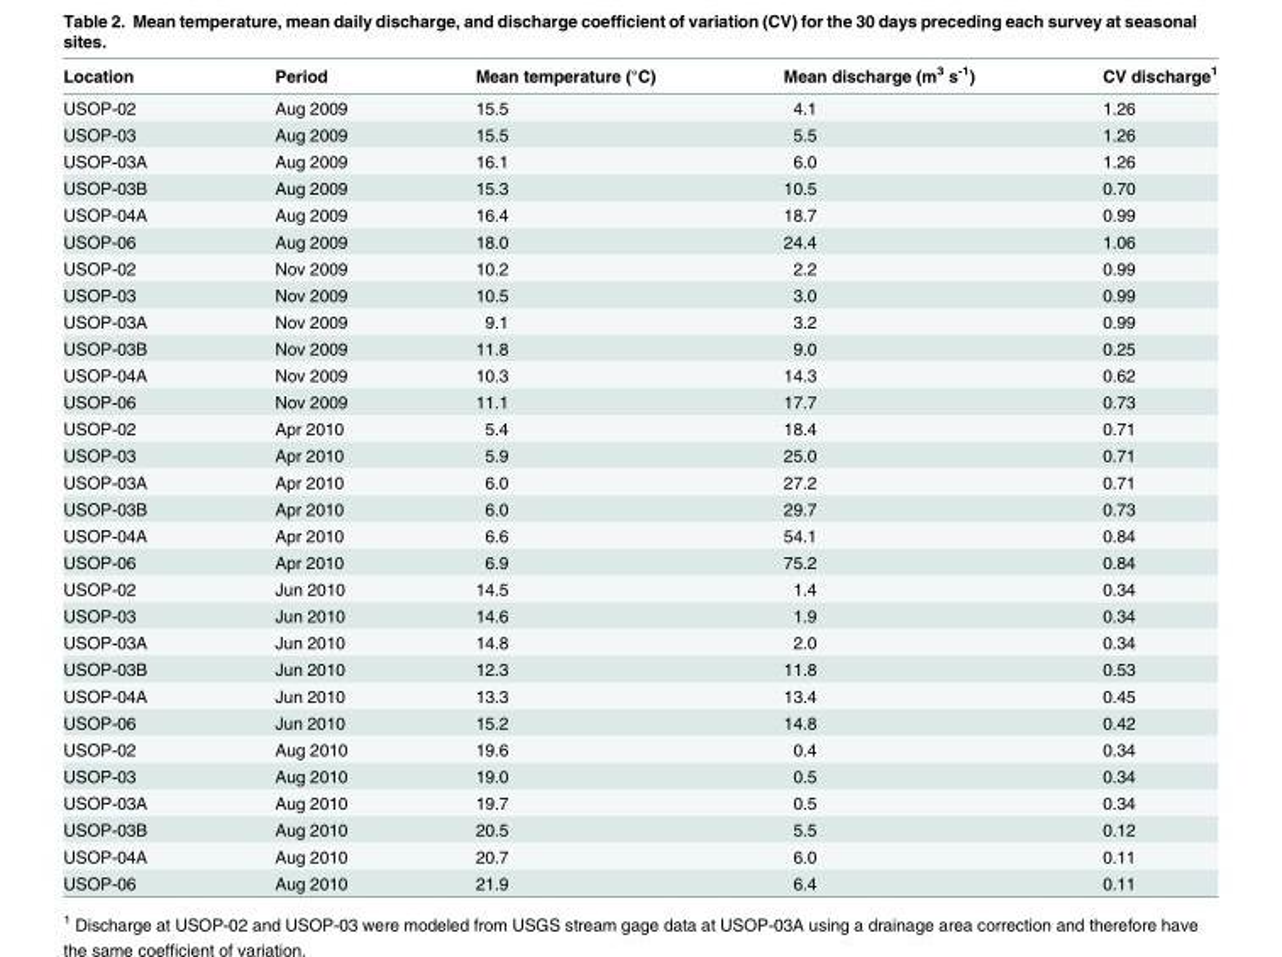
<table><thead><tr><td>Location</td><td>Period</td><td>Mean temperature (°C)</td><td>Mean discharge (m<sup>3</sup> s<sup>-1</sup>)</td><td>CV discharge<sup>1</sup></td></tr></thead><tbody><tr><td>USOP-02</td><td>Aug 2009</td><td>15.5</td><td>4.1</td><td>1.26</td></tr><tr><td>USOP-03</td><td>Aug 2009</td><td>15.5</td><td>5.5</td><td>1.26</td></tr><tr><td>USOP-03A</td><td>Aug 2009</td><td>16.1</td><td>6.0</td><td>1.26</td></tr><tr><td>USOP-03B</td><td>Aug 2009</td><td>15.3</td><td>10.5</td><td>0.70</td></tr><tr><td>USOP-04A</td><td>Aug 2009</td><td>16.4</td><td>18.7</td><td>0.99</td></tr><tr><td>USOP-06</td><td>Aug 2009</td><td>18.0</td><td>24.4</td><td>1.06</td></tr><tr><td>USOP-02</td><td>Nov 2009</td><td>10.2</td><td>2.2</td><td>0.99</td></tr><tr><td>USOP-03</td><td>Nov 2009</td><td>10.5</td><td>3.0</td><td>0.99</td></tr><tr><td>USOP-03A</td><td>Nov 2009</td><td>9.1</td><td>3.2</td><td>0.99</td></tr><tr><td>USOP-03B</td><td>Nov 2009</td><td>11.8</td><td>9.0</td><td>0.25</td></tr><tr><td>USOP-04A</td><td>Nov 2009</td><td>10.3</td><td>14.3</td><td>0.62</td></tr><tr><td>USOP-06</td><td>Nov 2009</td><td>11.1</td><td>17.7</td><td>0.73</td></tr><tr><td>USOP-02</td><td>Apr 2010</td><td>5.4</td><td>18.4</td><td>0.71</td></tr><tr><td>USOP-03</td><td>Apr 2010</td><td>5.9</td><td>25.0</td><td>0.71</td></tr><tr><td>USOP-03A</td><td>Apr 2010</td><td>6.0</td><td>27.2</td><td>0.71</td></tr><tr><td>USOP-03B</td><td>Apr 2010</td><td>6.0</td><td>29.7</td><td>0.73</td></tr><tr><td>USOP-04A</td><td>Apr 2010</td><td>6.6</td><td>54.1</td><td>0.84</td></tr><tr><td>USOP-06</td><td>Apr 2010</td><td>6.9</td><td>75.2</td><td>0.84</td></tr><tr><td>USOP-02</td><td>Jun 2010</td><td>14.5</td><td>1.4</td><td>0.34</td></tr><tr><td>USOP-03</td><td>Jun 2010</td><td>14.6</td><td>1.9</td><td>0.34</td></tr><tr><td>USOP-03A</td><td>Jun 2010</td><td>14.8</td><td>2.0</td><td>0.34</td></tr><tr><td>USOP-03B</td><td>Jun 2010</td><td>12.3</td><td>11.8</td><td>0.53</td></tr><tr><td>USOP-04A</td><td>Jun 2010</td><td>13.3</td><td>13.4</td><td>0.45</td></tr><tr><td>USOP-06</td><td>Jun 2010</td><td>15.2</td><td>14.8</td><td>0.42</td></tr><tr><td>USOP-02</td><td>Aug 2010</td><td>19.6</td><td>0.4</td><td>0.34</td></tr><tr><td>USOP-03</td><td>Aug 2010</td><td>19.0</td><td>0.5</td><td>0.34</td></tr><tr><td>USOP-03A</td><td>Aug 2010</td><td>19.7</td><td>0.5</td><td>0.34</td></tr><tr><td>USOP-03B</td><td>Aug 2010</td><td>20.5</td><td>5.5</td><td>0.12</td></tr><tr><td>USOP-04A</td><td>Aug 2010</td><td>20.7</td><td>6.0</td><td>0.11</td></tr><tr><td>USOP-06</td><td>Aug 2010</td><td>21.9</td><td>6.4</td><td>0.11</td></tr></tbody></table>